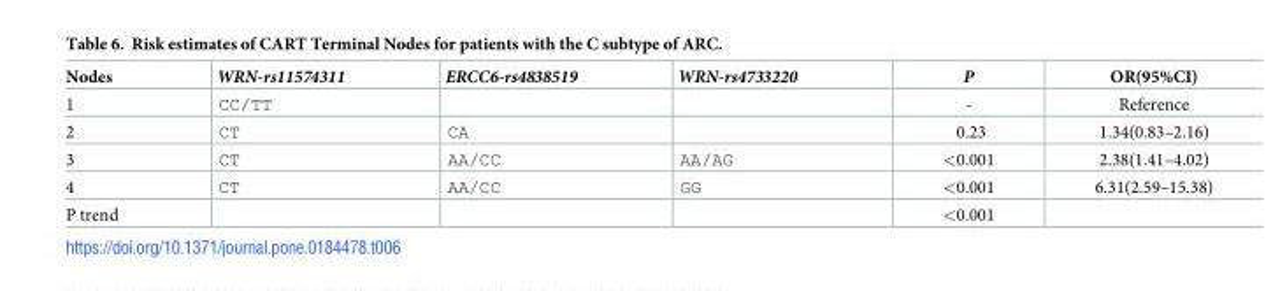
<table><thead><tr><td>Nodes</td><td>WRN-rs11574311</td><td>ERCC6-rs4838519</td><td>WRN-rs4733220</td><td>P</td><td>OR(95%CI)</td></tr></thead><tbody><tr><td>1</td><td>CC/TT</td><td></td><td></td><td>-</td><td>Reference</td></tr><tr><td>2</td><td>CT</td><td>CA</td><td></td><td>0.23</td><td>1.34(0.83–2.16)</td></tr><tr><td>3</td><td>CT</td><td>AA/CC</td><td>AA/AG</td><td>&lt;0.001</td><td>2.38(1.41–4.02)</td></tr><tr><td>4</td><td>CT</td><td>AA/CC</td><td>GG</td><td>&lt;0.001</td><td>6.31(2.59–15.38)</td></tr><tr><td>P trend</td><td></td><td></td><td></td><td>&lt;0.001</td><td></td></tr></tbody></table>